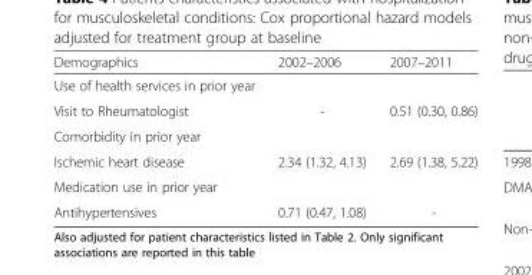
<table><thead><tr><td>Demographics</td><td>2002–2006</td><td>2007–2011</td></tr></thead><tbody><tr><td colspan="3">Use of health services in prior year</td></tr><tr><td>Visit to Rheumatologist</td><td>-</td><td>0.51 (0.30, 0.86)</td></tr><tr><td colspan="3">Comorbidity in prior year</td></tr><tr><td>Ischemic heart disease</td><td>2.34 (1.32, 4.13)</td><td>2.69 (1.38, 5.22)</td></tr><tr><td colspan="3">Medication use in prior year</td></tr><tr><td>Antihypertensives</td><td>0.71 (0.47, 1.08)</td><td>-</td></tr></tbody></table>